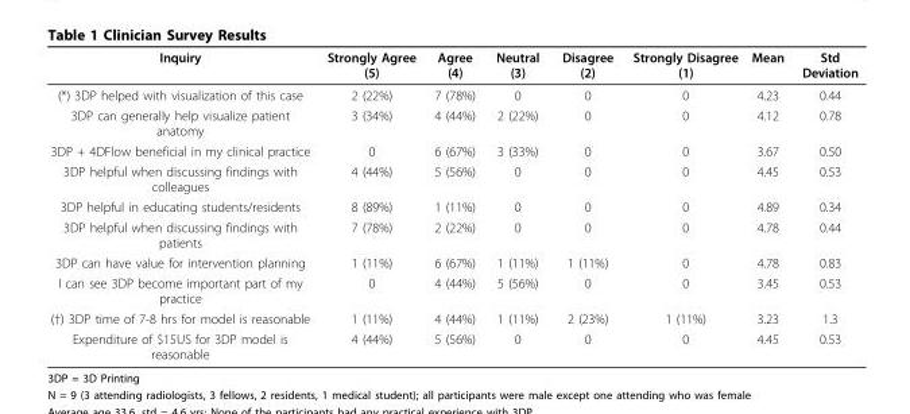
<table><thead><tr><td>Inquiry</td><td>Strongly Agree (5)</td><td>Agree (4)</td><td>Neutral (3)</td><td>Disagree (2)</td><td>Strongly Disagree (1)</td><td>Mean</td><td>Std Deviation</td></tr></thead><tbody><tr><td>(*) 3DP helped with visualization of this case</td><td>2 (22%)</td><td>7 (78%)</td><td>0</td><td>0</td><td>0</td><td>4.23</td><td>0.44</td></tr><tr><td>3DP can generally help visualize patient anatomy</td><td>3 (34%)</td><td>4 (44%)</td><td>2 (22%)</td><td>0</td><td>0</td><td>4.12</td><td>0.78</td></tr><tr><td>3DP + 4DFlow beneficial in my clinical practice</td><td>0</td><td>6 (67%)</td><td>3 (33%)</td><td>0</td><td>0</td><td>3.67</td><td>0.50</td></tr><tr><td>3DP helpful when discussing findings with colleagues</td><td>4 (44%)</td><td>5 (56%)</td><td>0</td><td>0</td><td>0</td><td>4.45</td><td>0.53</td></tr><tr><td>3DP helpful in educating students/residents</td><td>8 (89%)</td><td>1 (11%)</td><td>0</td><td>0</td><td>0</td><td>4.89</td><td>0.34</td></tr><tr><td>3DP helpful when discussing findings with patients</td><td>7 (78%)</td><td>2 (22%)</td><td>0</td><td>0</td><td>0</td><td>4.78</td><td>0.44</td></tr><tr><td>3DP can have value for intervention planning</td><td>1 (11%)</td><td>6 (67%)</td><td>1 (11%)</td><td>1 (11%)</td><td>0</td><td>4.78</td><td>0.83</td></tr><tr><td>I can see 3DP become important part of my practice</td><td>0</td><td>4 (44%)</td><td>5 (56%)</td><td>0</td><td>0</td><td>3.45</td><td>0.53</td></tr><tr><td>(†) 3DP time of 7-8 hrs for model is reasonable</td><td>1 (11%)</td><td>4 (44%)</td><td>1 (11%)</td><td>2 (23%)</td><td>1 (11%)</td><td>3.23</td><td>1.3</td></tr><tr><td>Expenditure of $15US for 3DP model is reasonable</td><td>4 (44%)</td><td>5 (56%)</td><td>0</td><td>0</td><td>0</td><td>4.45</td><td>0.53</td></tr></tbody></table>